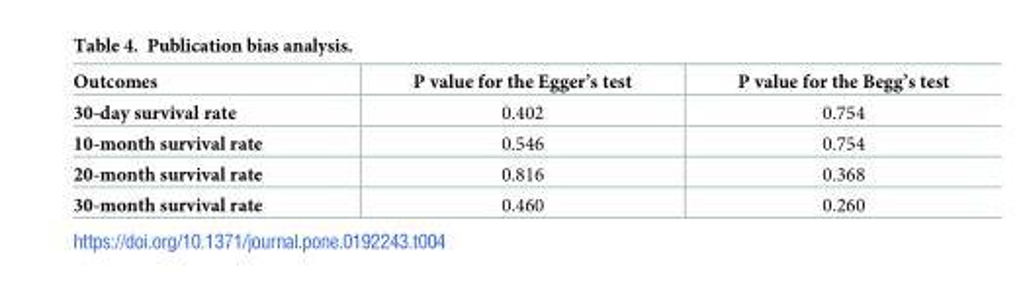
<table><thead><tr><td>Outcomes</td><td>P value for the Egger’s test</td><td>P value for the Begg’s test</td></tr></thead><tbody><tr><td>30-day survival rate</td><td>0.402</td><td>0.754</td></tr><tr><td>10-month survival rate</td><td>0.546</td><td>0.754</td></tr><tr><td>20-month survival rate</td><td>0.816</td><td>0.368</td></tr><tr><td>30-month survival rate</td><td>0.460</td><td>0.260</td></tr></tbody></table>